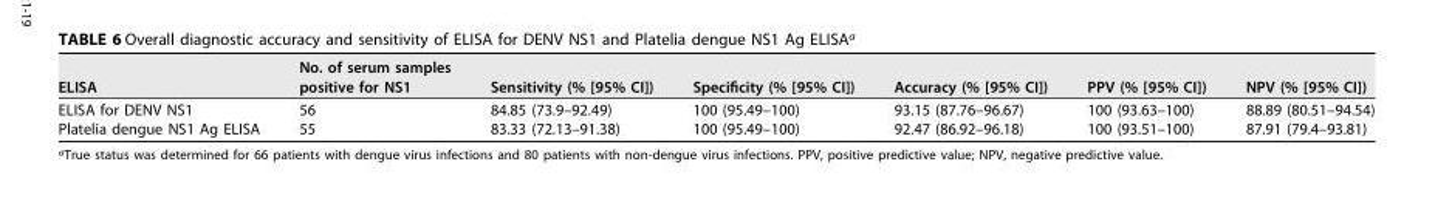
<table><thead><tr><td>ELISA</td><td>No. of serum samples positive for NS1</td><td>Sensitivity (% [95% CI])</td><td>Specificity (% [95% CI])</td><td>Accuracy (% [95% CI])</td><td>PPV (% [95% CI])</td><td>NPV (% [95% CI])</td></tr></thead><tbody><tr><td>ELISA for DENV NS1</td><td>56</td><td>84.85 (73.9–92.49)</td><td>100 (95.49–100)</td><td>93.15 (87.76–96.67)</td><td>100 (93.63–100)</td><td>88.89 (80.51–94.54)</td></tr><tr><td>Platelia dengue NS1 Ag ELISA</td><td>55</td><td>83.33 (72.13–91.38)</td><td>100 (95.49–100)</td><td>92.47 (86.92–96.18)</td><td>100 (93.51–100)</td><td>87.91 (79.4–93.81)</td></tr></tbody></table>